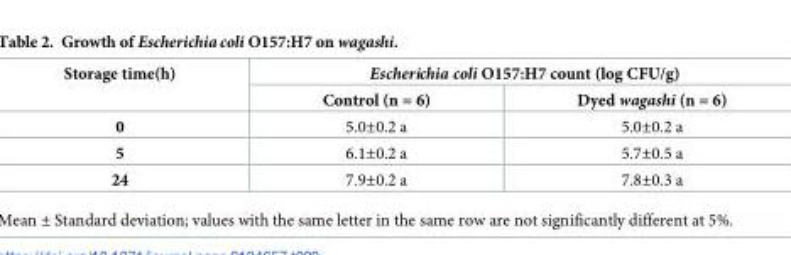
<table><thead><tr><td rowspan="2">Storage time(h)</td><td colspan="2">Escherichia coli O157:H7 count (log CFU/g)</td></tr><tr><td>Control (n = 6)</td><td>Dyed wagashi (n = 6)</td></tr></thead><tbody><tr><td>0</td><td>5.0±0.2 a</td><td>5.0±0.2 a</td></tr><tr><td>5</td><td>6.1±0.2 a</td><td>5.7±0.5 a</td></tr><tr><td>24</td><td>7.9±0.2 a</td><td>7.8±0.3 a</td></tr></tbody></table>